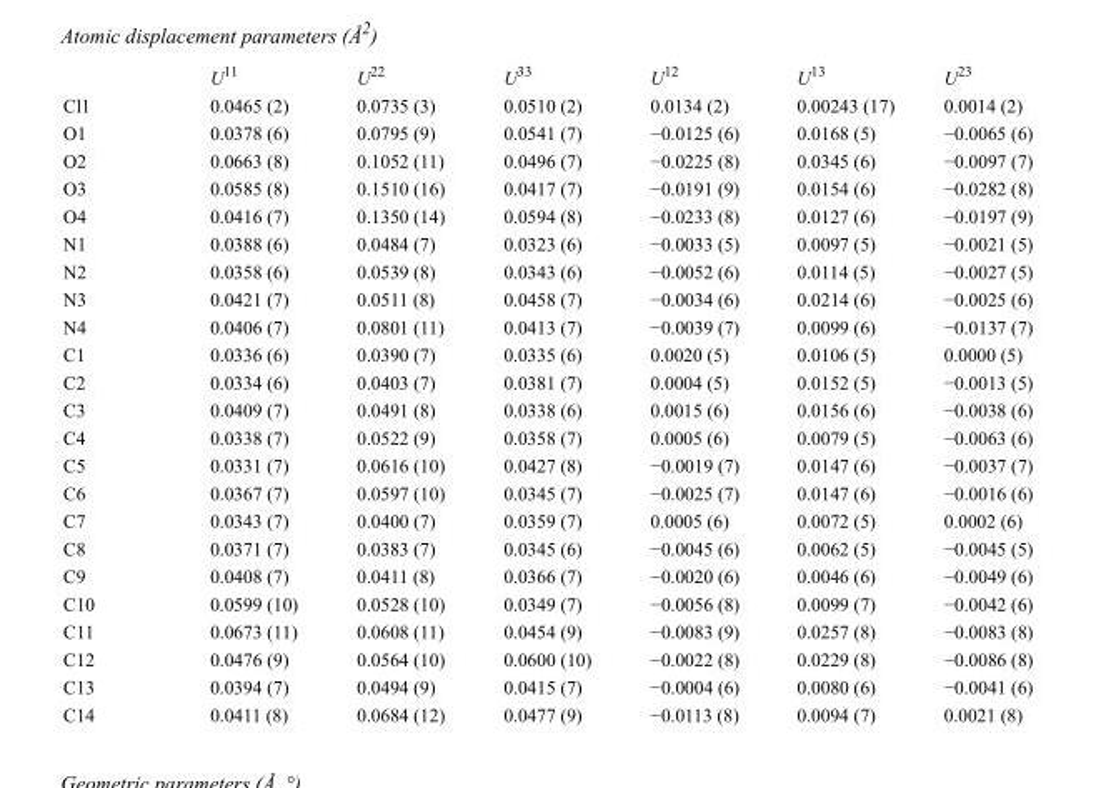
<table><thead><tr><td></td><td>U<sup>11</sup></td><td>U<sup>22</sup></td><td>U<sup>33</sup></td><td>U<sup>12</sup></td><td>U<sup>13</sup></td><td>U<sup>23</sup></td></tr></thead><tbody><tr><td>Cl1</td><td>0.0465 (2)</td><td>0.0735 (3)</td><td>0.0510 (2)</td><td>0.0134 (2)</td><td>0.00243 (17)</td><td>0.0014 (2)</td></tr><tr><td>O1</td><td>0.0378 (6)</td><td>0.0795 (9)</td><td>0.0541 (7)</td><td>−0.0125 (6)</td><td>0.0168 (5)</td><td>−0.0065 (6)</td></tr><tr><td>O2</td><td>0.0663 (8)</td><td>0.1052 (11)</td><td>0.0496 (7)</td><td>−0.0225 (8)</td><td>0.0345 (6)</td><td>−0.0097 (7)</td></tr><tr><td>O3</td><td>0.0585 (8)</td><td>0.1510 (16)</td><td>0.0417 (7)</td><td>−0.0191 (9)</td><td>0.0154 (6)</td><td>−0.0282 (8)</td></tr><tr><td>O4</td><td>0.0416 (7)</td><td>0.1350 (14)</td><td>0.0594 (8)</td><td>−0.0233 (8)</td><td>0.0127 (6)</td><td>−0.0197 (9)</td></tr><tr><td>N1</td><td>0.0388 (6)</td><td>0.0484 (7)</td><td>0.0323 (6)</td><td>−0.0033 (5)</td><td>0.0097 (5)</td><td>−0.0021 (5)</td></tr><tr><td>N2</td><td>0.0358 (6)</td><td>0.0539 (8)</td><td>0.0343 (6)</td><td>−0.0052 (6)</td><td>0.0114 (5)</td><td>−0.0027 (5)</td></tr><tr><td>N3</td><td>0.0421 (7)</td><td>0.0511 (8)</td><td>0.0458 (7)</td><td>−0.0034 (6)</td><td>0.0214 (6)</td><td>−0.0025 (6)</td></tr><tr><td>N4</td><td>0.0406 (7)</td><td>0.0801 (11)</td><td>0.0413 (7)</td><td>−0.0039 (7)</td><td>0.0099 (6)</td><td>−0.0137 (7)</td></tr><tr><td>C1</td><td>0.0336 (6)</td><td>0.0390 (7)</td><td>0.0335 (6)</td><td>0.0020 (5)</td><td>0.0106 (5)</td><td>0.0000 (5)</td></tr><tr><td>C2</td><td>0.0334 (6)</td><td>0.0403 (7)</td><td>0.0381 (7)</td><td>0.0004 (5)</td><td>0.0152 (5)</td><td>−0.0013 (5)</td></tr><tr><td>C3</td><td>0.0409 (7)</td><td>0.0491 (8)</td><td>0.0338 (6)</td><td>0.0015 (6)</td><td>0.0156 (6)</td><td>−0.0038 (6)</td></tr><tr><td>C4</td><td>0.0338 (7)</td><td>0.0522 (9)</td><td>0.0358 (7)</td><td>0.0005 (6)</td><td>0.0079 (5)</td><td>−0.0063 (6)</td></tr><tr><td>C5</td><td>0.0331 (7)</td><td>0.0616 (10)</td><td>0.0427 (8)</td><td>−0.0019 (7)</td><td>0.0147 (6)</td><td>−0.0037 (7)</td></tr><tr><td>C6</td><td>0.0367 (7)</td><td>0.0597 (10)</td><td>0.0345 (7)</td><td>−0.0025 (7)</td><td>0.0147 (6)</td><td>−0.0016 (6)</td></tr><tr><td>C7</td><td>0.0343 (7)</td><td>0.0400 (7)</td><td>0.0359 (7)</td><td>0.0005 (6)</td><td>0.0072 (5)</td><td>0.0002 (6)</td></tr><tr><td>C8</td><td>0.0371 (7)</td><td>0.0383 (7)</td><td>0.0345 (6)</td><td>−0.0045 (6)</td><td>0.0062 (5)</td><td>−0.0045 (5)</td></tr><tr><td>C9</td><td>0.0408 (7)</td><td>0.0411 (8)</td><td>0.0366 (7)</td><td>−0.0020 (6)</td><td>0.0046 (6)</td><td>−0.0049 (6)</td></tr><tr><td>C10</td><td>0.0599 (10)</td><td>0.0528 (10)</td><td>0.0349 (7)</td><td>−0.0056 (8)</td><td>0.0099 (7)</td><td>−0.0042 (6)</td></tr><tr><td>C11</td><td>0.0673 (11)</td><td>0.0608 (11)</td><td>0.0454 (9)</td><td>−0.0083 (9)</td><td>0.0257 (8)</td><td>−0.0083 (8)</td></tr><tr><td>C12</td><td>0.0476 (9)</td><td>0.0564 (10)</td><td>0.0600 (10)</td><td>−0.0022 (8)</td><td>0.0229 (8)</td><td>−0.0086 (8)</td></tr><tr><td>C13</td><td>0.0394 (7)</td><td>0.0494 (9)</td><td>0.0415 (7)</td><td>−0.0004 (6)</td><td>0.0080 (6)</td><td>−0.0041 (6)</td></tr><tr><td>C14</td><td>0.0411 (8)</td><td>0.0684 (12)</td><td>0.0477 (9)</td><td>−0.0113 (8)</td><td>0.0094 (7)</td><td>0.0021 (8)</td></tr></tbody></table>